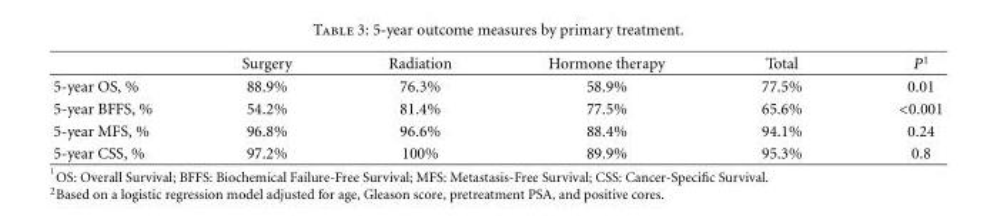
<table><thead><tr><td></td><td>Surgery</td><td>Radiation</td><td>Hormone therapy</td><td>Total</td><td>P<sup>1</sup></td></tr></thead><tbody><tr><td>5-year OS, %</td><td>88.9%</td><td>76.3%</td><td>58.9%</td><td>77.5%</td><td>0.01</td></tr><tr><td>5-year BFFS, %</td><td>54.2%</td><td>81.4%</td><td>77.5%</td><td>65.6%</td><td>&lt;0.001</td></tr><tr><td>5-year MFS, %</td><td>96.8%</td><td>96.6%</td><td>88.4%</td><td>94.1%</td><td>0.24</td></tr><tr><td>5-year CSS, %</td><td>97.2%</td><td>100%</td><td>89.9%</td><td>95.3%</td><td>0.8</td></tr></tbody></table>